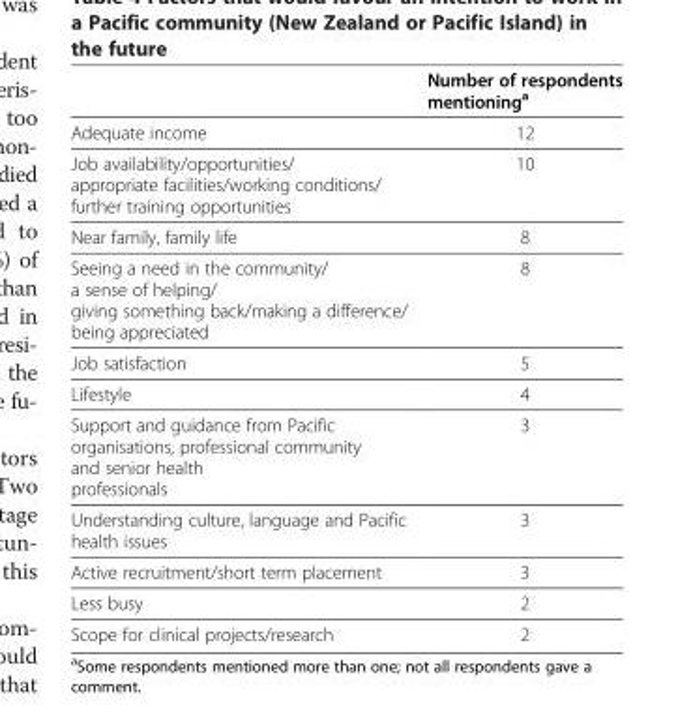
<table><thead><tr><td></td><td>Number of respondents mentioning<sup>a</sup></td></tr></thead><tbody><tr><td>Adequate income</td><td>12</td></tr><tr><td>Job availability/opportunities/ appropriate facilities/working conditions/ further training opportunities</td><td>10</td></tr><tr><td>Near family, family life</td><td>8</td></tr><tr><td>Seeing a need in the community/ a sense of helping/ giving something back/making a difference/ being appreciated</td><td>8</td></tr><tr><td>Job satisfaction</td><td>5</td></tr><tr><td>Lifestyle</td><td>4</td></tr><tr><td>Support and guidance from Pacific organisations, professional community and senior health professionals</td><td>3</td></tr><tr><td>Understanding culture, language and Pacific health issues</td><td>3</td></tr><tr><td>Active recruitment/short term placement</td><td>3</td></tr><tr><td>Less busy</td><td>2</td></tr><tr><td>Scope for clinical projects/research</td><td>2</td></tr></tbody></table>